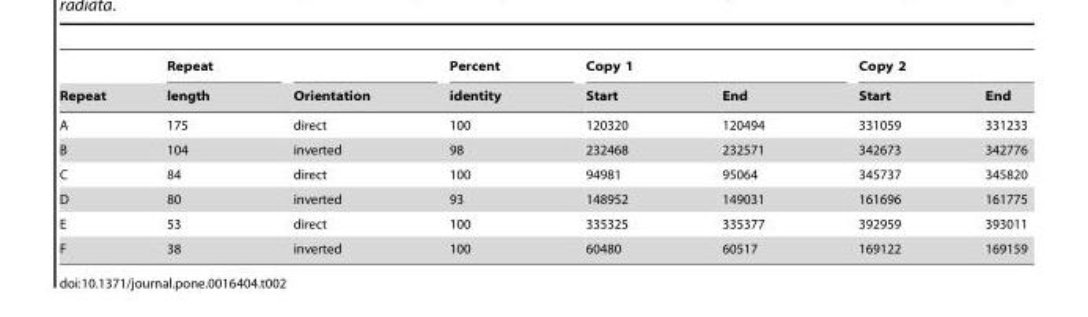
<table><thead><tr><td rowspan="2">Repeat</td><td rowspan="2">Repeat length</td><td rowspan="2">Orientation</td><td rowspan="2">Percent identity</td><td colspan="2">Copy 1</td><td colspan="2">Copy 2</td></tr><tr><td>Start</td><td>End</td><td>Start</td><td>End</td></tr></thead><tbody><tr><td>A</td><td>175</td><td>direct</td><td>100</td><td>120320</td><td>120494</td><td>331059</td><td>331233</td></tr><tr><td>B</td><td>104</td><td>inverted</td><td>98</td><td>232468</td><td>232571</td><td>342673</td><td>342776</td></tr><tr><td>C</td><td>84</td><td>direct</td><td>100</td><td>94981</td><td>95064</td><td>345737</td><td>345820</td></tr><tr><td>D</td><td>80</td><td>inverted</td><td>93</td><td>148952</td><td>149031</td><td>161696</td><td>161775</td></tr><tr><td>E</td><td>53</td><td>direct</td><td>100</td><td>335325</td><td>335377</td><td>392959</td><td>393011</td></tr><tr><td>F</td><td>38</td><td>inverted</td><td>100</td><td>60480</td><td>60517</td><td>169122</td><td>169159</td></tr></tbody></table>